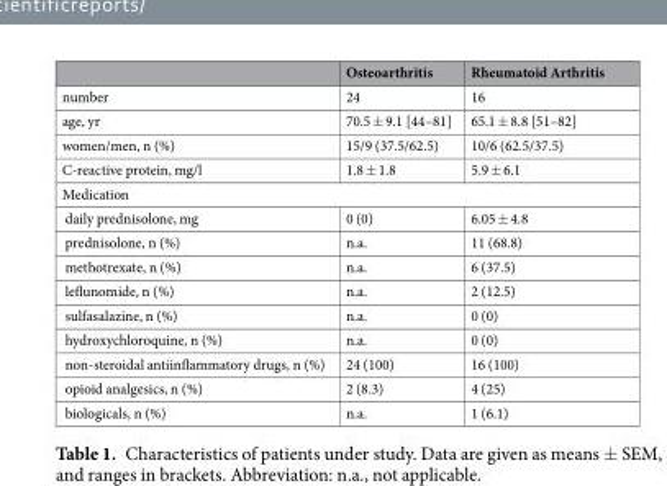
<table><thead><tr><td></td><td>Osteoarthritis</td><td>Rheumatoid Arthritis</td></tr></thead><tbody><tr><td>number</td><td>24</td><td>16</td></tr><tr><td>age, yr</td><td>70.5 ± 9.1 [44–81]</td><td>65.1 ± 8.8 [51–82]</td></tr><tr><td>women/men, n (%)</td><td>15/9 (37.5/62.5)</td><td>10/6 (62.5/37.5)</td></tr><tr><td>C-reactive protein, mg/l</td><td>1.8 ± 1.8</td><td>5.9 ± 6.1</td></tr><tr><td colspan="3">Medication</td></tr><tr><td>daily prednisolone, mg</td><td>0 (0)</td><td>6.05 ± 4.8</td></tr><tr><td>prednisolone, n (%)</td><td>n.a.</td><td>11 (68.8)</td></tr><tr><td>methotrexate, n (%)</td><td>n.a.</td><td>6 (37.5)</td></tr><tr><td>leflunomide, n (%)</td><td>n.a.</td><td>2 (12.5)</td></tr><tr><td>sulfasalazine, n (%)</td><td>n.a.</td><td>0 (0)</td></tr><tr><td>hydroxychloroquine, n (%)</td><td>n.a.</td><td>0 (0)</td></tr><tr><td>non-steroidal antiinflammatory drugs, n (%)</td><td>24 (100)</td><td>16 (100)</td></tr><tr><td>opioid analgesics, n (%)</td><td>2 (8.3)</td><td>4 (25)</td></tr><tr><td>biologicals, n (%)</td><td>n.a.</td><td>1 (6.1)</td></tr></tbody></table>